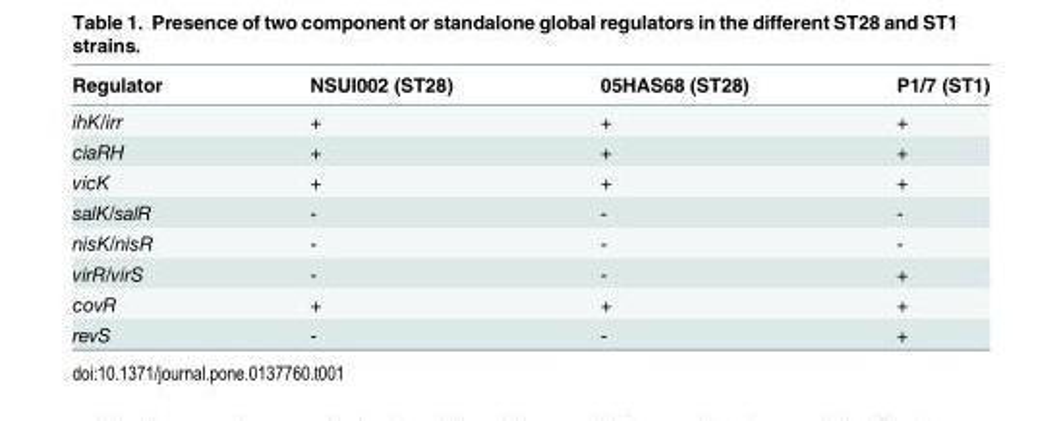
<table><thead><tr><td>Regulator</td><td>NSUI002 (ST28)</td><td>05HAS68 (ST28)</td><td>P1/7 (ST1)</td></tr></thead><tbody><tr><td>ihK/irr</td><td>+</td><td>+</td><td>+</td></tr><tr><td>ciaRH</td><td>+</td><td>+</td><td>+</td></tr><tr><td>vicK</td><td>+</td><td>+</td><td>+</td></tr><tr><td>salK/salR</td><td>-</td><td>-</td><td>-</td></tr><tr><td>nisK/nisR</td><td>-</td><td>-</td><td>-</td></tr><tr><td>virR/virS</td><td>-</td><td>-</td><td>+</td></tr><tr><td>covR</td><td>+</td><td>+</td><td>+</td></tr><tr><td>revS</td><td>-</td><td>-</td><td>+</td></tr></tbody></table>